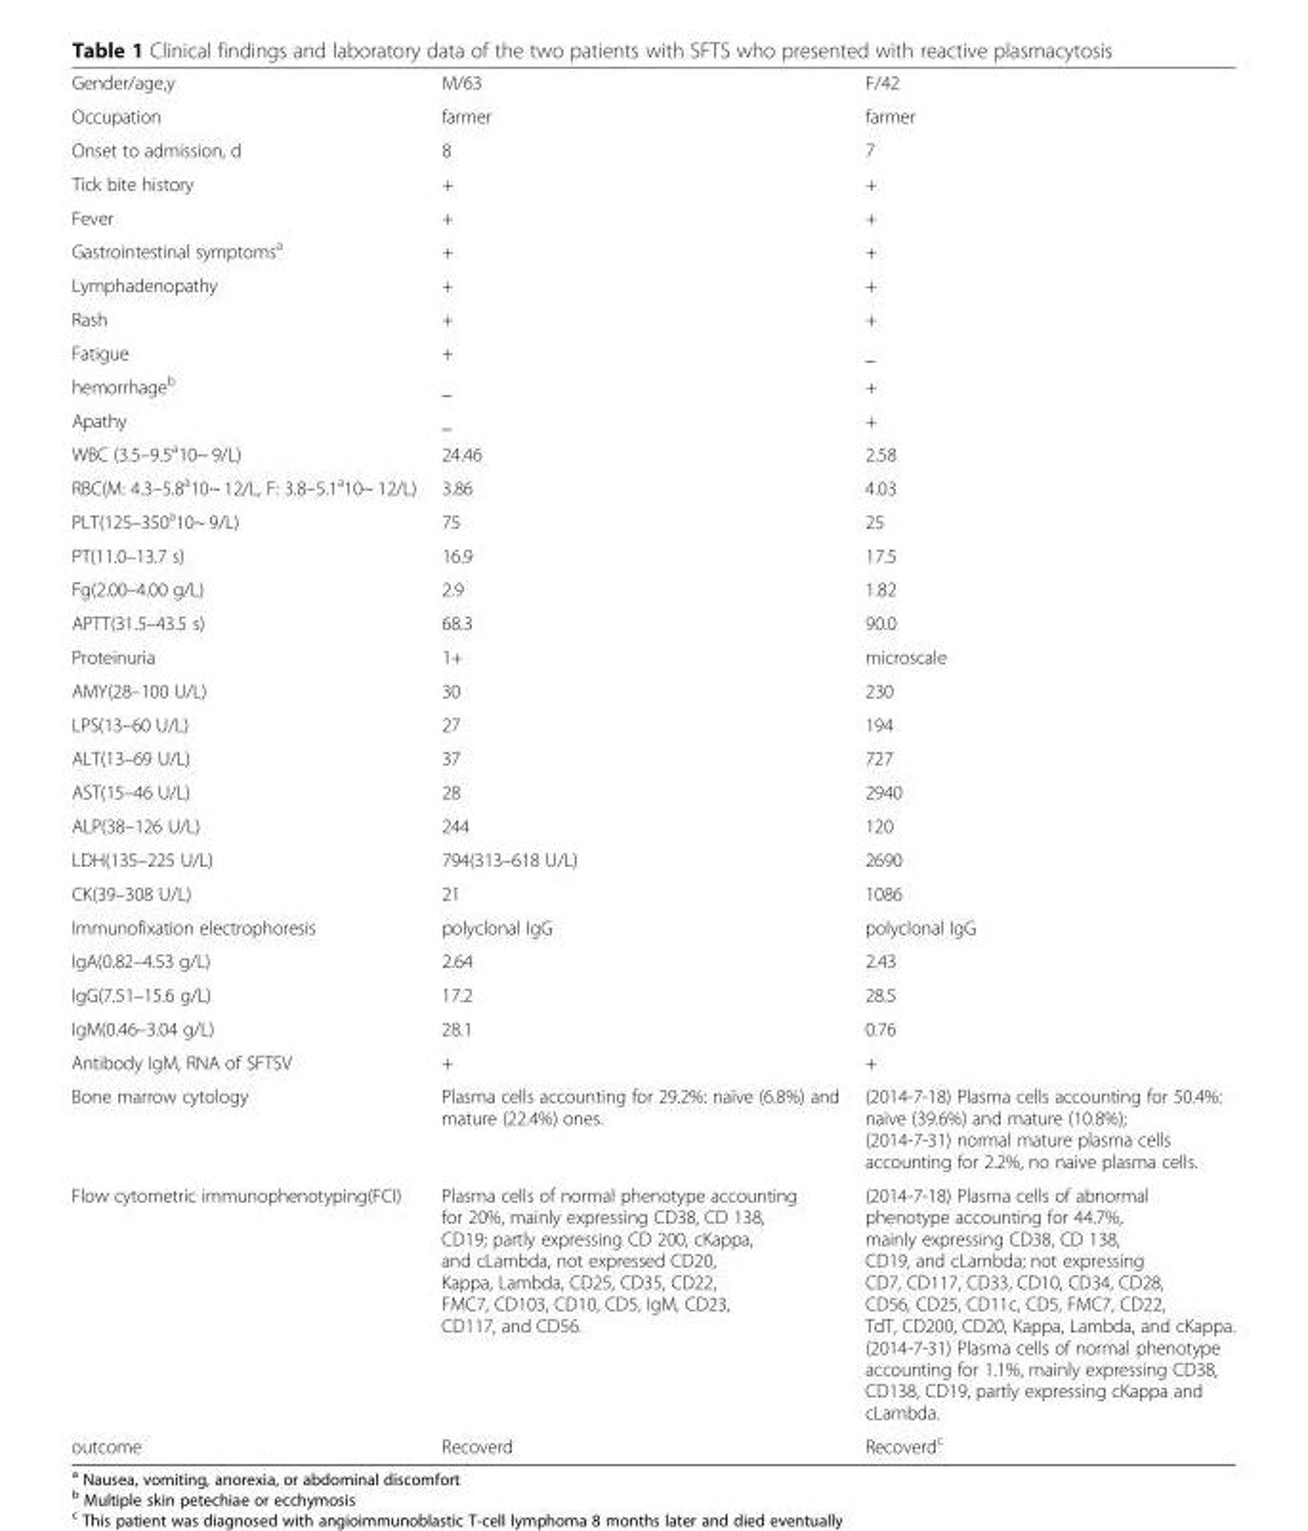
<table><tbody><tr><td>Gender/age,y</td><td>M/63</td><td>F/42</td></tr><tr><td>Occupation</td><td>farmer</td><td>farmer</td></tr><tr><td>Onset to admission, d</td><td>8</td><td>7</td></tr><tr><td>Tick bite history</td><td>+</td><td>+</td></tr><tr><td>Fever</td><td>+</td><td>+</td></tr><tr><td>Gastrointestinal symptoms<sup>a</sup></td><td>+</td><td>+</td></tr><tr><td>Lymphadenopathy</td><td>+</td><td>+</td></tr><tr><td>Rash</td><td>+</td><td>+</td></tr><tr><td>Fatigue</td><td>+</td><td>_</td></tr><tr><td>hemorrhage<sup>b</sup></td><td>_</td><td>+</td></tr><tr><td>Apathy</td><td>_</td><td>+</td></tr><tr><td>WBC (3.5–9.5<sup>a</sup>10~ 9/L)</td><td>24.46</td><td>2.58</td></tr><tr><td>RBC(M: 4.3–5.8<sup>a</sup>10~ 12/L, F: 3.8–5.1<sup>a</sup>10~ 12/L)</td><td>3.86</td><td>4.03</td></tr><tr><td>PLT(125–350<sup>a</sup>10~ 9/L)</td><td>75</td><td>25</td></tr><tr><td>PT(11.0–13.7 s)</td><td>16.9</td><td>17.5</td></tr><tr><td>Fg(2.00–4.00 g/L)</td><td>2.9</td><td>1.82</td></tr><tr><td>APTT(31.5–43.5 s)</td><td>68.3</td><td>90.0</td></tr><tr><td>Proteinuria</td><td>1+</td><td>microscale</td></tr><tr><td>AMY(28–100 U/L)</td><td>30</td><td>230</td></tr><tr><td>LPS(13–60 U/L)</td><td>27</td><td>194</td></tr><tr><td>ALT(13–69 U/L)</td><td>37</td><td>727</td></tr><tr><td>AST(15–46 U/L)</td><td>28</td><td>2940</td></tr><tr><td>ALP(38–126 U/L)</td><td>244</td><td>120</td></tr><tr><td>LDH(135–225 U/L)</td><td>794(313–618 U/L)</td><td>2690</td></tr><tr><td>CK(39–308 U/L)</td><td>21</td><td>1086</td></tr><tr><td>Immunofixation electrophoresis</td><td>polyclonal IgG</td><td>polyclonal IgG</td></tr><tr><td>IgA(0.82–4.53 g/L)</td><td>2.64</td><td>2.43</td></tr><tr><td>IgG(7.51–15.6 g/L)</td><td>17.2</td><td>28.5</td></tr><tr><td>IgM(0.46–3.04 g/L)</td><td>28.1</td><td>0.76</td></tr><tr><td>Antibody IgM, RNA of SFTSV</td><td>+</td><td>+</td></tr><tr><td>Bone marrow cytology</td><td>Plasma cells accounting for 29.2%: naïve (6.8%) and mature (22.4%) ones.</td><td>(2014-7-18) Plasma cells accounting for 50.4%: naïve (39.6%) and mature (10.8%); (2014-7-31) normal mature plasma cells accounting for 2.2%, no naive plasma cells.</td></tr><tr><td>Flow cytometric immunophenotyping(FCI)</td><td>Plasma cells of normal phenotype accounting for 20%, mainly expressing CD38, CD 138, CD19; partly expressing CD 200, cKappa, and cLambda, not expressed CD20, Kappa, Lambda, CD25, CD35, CD22, FMC7, CD103, CD10, CD5, IgM, CD23, CD117, and CD56.</td><td>(2014-7-18) Plasma cells of abnormal phenotype accounting for 44.7%, mainly expressing CD38, CD 138, CD19, and cLambda; not expressing CD7, CD117, CD33, CD10, CD34, CD28, CD56, CD25, CD11c, CD5, FMC7, CD22, TdT, CD200, CD20, Kappa, Lambda, and cKappa. (2014-7-31) Plasma cells of normal phenotype accounting for 1.1%, mainly expressing CD38, CD138, CD19, partly expressing cKappa and cLambda.</td></tr><tr><td>outcome</td><td>Recoverd</td><td>Recoverd<sup>c</sup></td></tr></tbody></table>